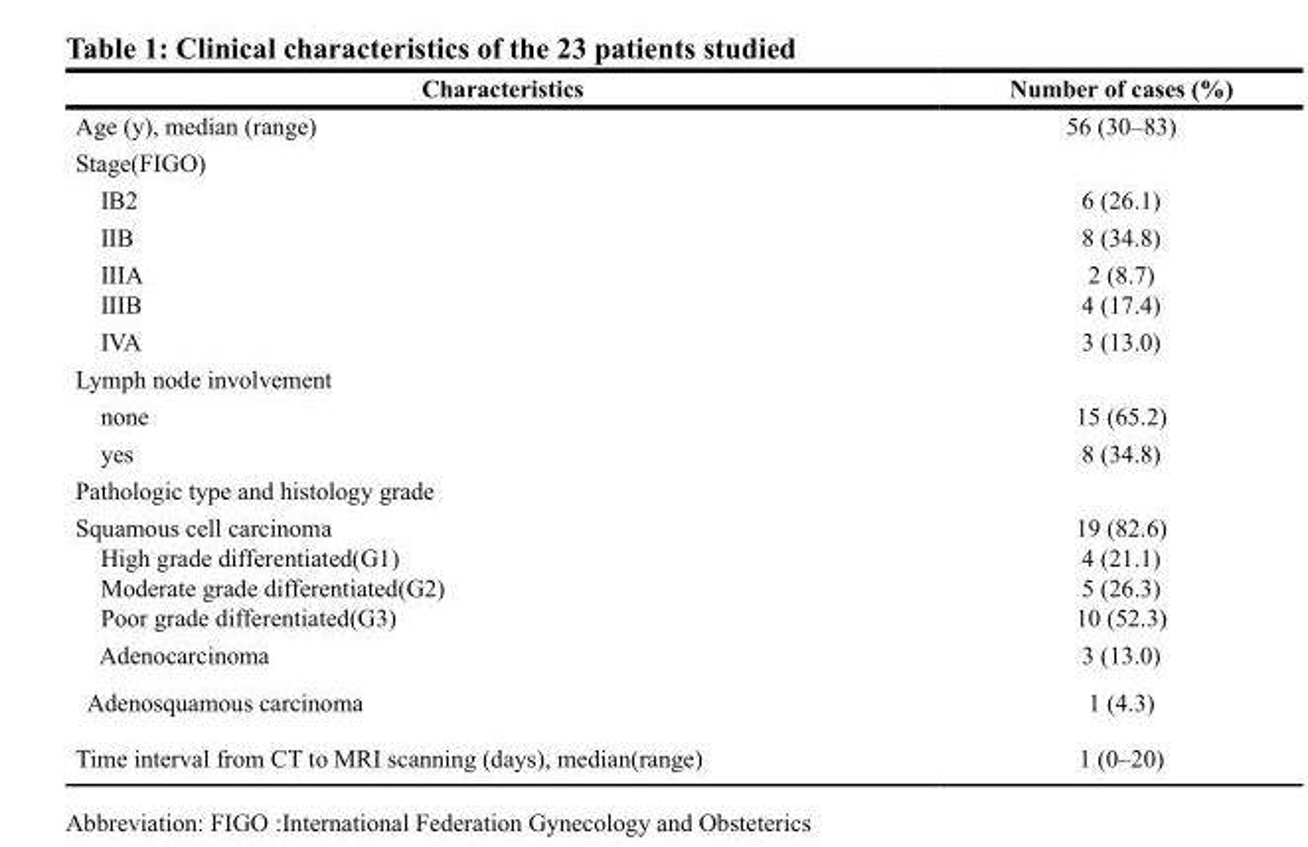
<table><thead><tr><td>Characteristics</td><td>Number of cases (%)</td></tr></thead><tbody><tr><td>Age (y), median (range)</td><td>56 (30–83)</td></tr><tr><td colspan="2">Stage(FIGO)</td></tr><tr><td>IB2</td><td>6 (26.1)</td></tr><tr><td>IIB</td><td>8 (34.8)</td></tr><tr><td>IIIA IIIB</td><td>2 (8.7) 4 (17.4)</td></tr><tr><td>IVA</td><td>3 (13.0)</td></tr><tr><td colspan="2">Lymph node involvement</td></tr><tr><td>none</td><td>15 (65.2)</td></tr><tr><td>yes</td><td>8 (34.8)</td></tr><tr><td colspan="2">Pathologic type and histology grade</td></tr><tr><td>Squamous cell carcinoma High grade differentiated(G1) Moderate grade differentiated(G2) Poor grade differentiated(G3)</td><td>19 (82.6) 4 (21.1) 5 (26.3) 10 (52.3)</td></tr><tr><td>Adenocarcinoma</td><td>3 (13.0)</td></tr><tr><td>Adenosquamous carcinoma</td><td>1 (4.3)</td></tr><tr><td>Time interval from CT to MRI scanning (days), median(range)</td><td>1 (0–20)</td></tr></tbody></table>